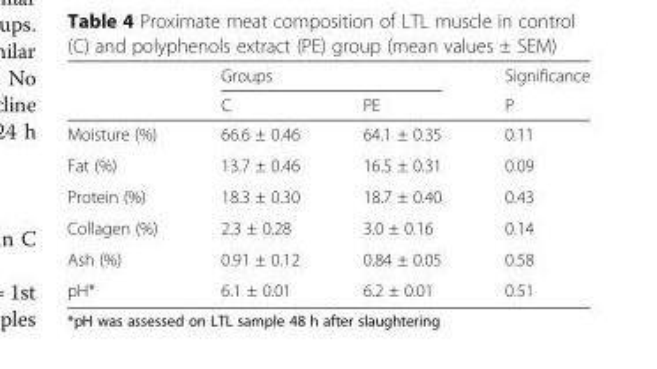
<table><thead><tr><td rowspan="2"></td><td colspan="2">Groups</td><td rowspan="2">Significance P</td></tr><tr><td>C</td><td>PE</td></tr></thead><tbody><tr><td>Moisture (%)</td><td>66.6 ± 0.46</td><td>64.1 ± 0.35</td><td>0.11</td></tr><tr><td>Fat (%)</td><td>13.7 ± 0.46</td><td>16.5 ± 0.31</td><td>0.09</td></tr><tr><td>Protein (%)</td><td>18.3 ± 0.30</td><td>18.7 ± 0.40</td><td>0.43</td></tr><tr><td>Collagen (%)</td><td>2.3 ± 0.28</td><td>3.0 ± 0.16</td><td>0.14</td></tr><tr><td>Ash (%)</td><td>0.91 ± 0.12</td><td>0.84 ± 0.05</td><td>0.58</td></tr><tr><td>pH*</td><td>6.1 ± 0.01</td><td>6.2 ± 0.01</td><td>0.51</td></tr></tbody></table>